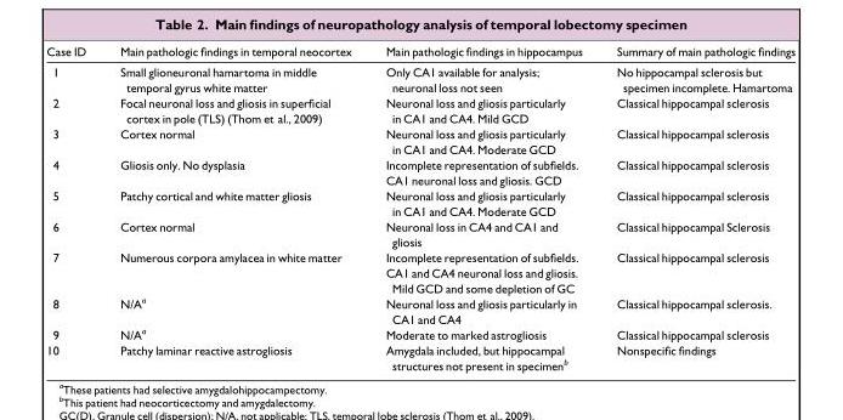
<table><thead><tr><td>Case ID</td><td>Main pathologic findings in temporal neocortex</td><td>Main pathologic findings in hippocampus</td><td>Summary of main pathologic findings</td></tr></thead><tbody><tr><td>1</td><td>Small glioneuronal hamartoma in middle temporal gyrus white matter</td><td>Only CA1 available for analysis; neuronal loss not seen</td><td>No hippocampal sclerosis but specimen incomplete. Hamartoma</td></tr><tr><td>2</td><td>Focal neuronal loss and gliosis in superficial cortex in pole (TLS) (Thom et al., 2009)</td><td>Neuronal loss and gliosis particularly in CA1 and CA4. Mild GCD</td><td>Classical hippocampal sclerosis</td></tr><tr><td>3</td><td>Cortex normal</td><td>Neuronal loss and gliosis particularly in CA1 and CA4. Moderate GCD</td><td>Classical hippocampal sclerosis</td></tr><tr><td>4</td><td>Gliosis only. No dysplasia</td><td>Incomplete representation of subfields. CA1 neuronal loss and gliosis. GCD</td><td>Classical hippocampal sclerosis</td></tr><tr><td>5</td><td>Patchy cortical and white matter gliosis</td><td>Neuronal loss and gliosis particularly in CA1 and CA4. Moderate GCD</td><td>Classical hippocampal sclerosis</td></tr><tr><td>6</td><td>Cortex normal</td><td>Neuronal loss in CA4 and CA1 and gliosis</td><td>Classical hippocampal Sclerosis</td></tr><tr><td>7</td><td>Numerous corpora amylacea in white matter</td><td>Incomplete representation of subfields. CA1 and CA4 neuronal loss and gliosis. Mild GCD and some depletion of GC</td><td>Classical hippocampal sclerosis</td></tr><tr><td>8</td><td>N/Aa</td><td>Neuronal loss and gliosis particularly in CA1 and CA4</td><td>Classical hippocampal sclerosis.</td></tr><tr><td>9</td><td>N/Aa</td><td>Moderate to marked astrogliosis</td><td>Classical hippocampal sclerosis</td></tr><tr><td>10</td><td>Patchy laminar reactive astrogliosis</td><td>Amygdala included, but hippocampal structures not present in specimenb</td><td>Nonspecific findings</td></tr></tbody></table>